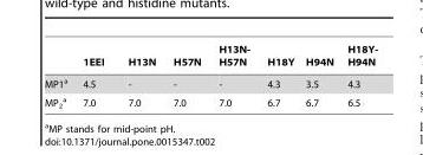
<table><thead><tr><td></td><td>1EEI</td><td>H13N</td><td>H57N</td><td>H13N- H57N</td><td>H18Y</td><td>H94N</td><td>H18Y- H94N</td></tr></thead><tbody><tr><td>MP1<sup>a</sup></td><td>4.5</td><td>-</td><td>-</td><td>-</td><td>4.3</td><td>3.5</td><td>4.3</td></tr><tr><td>MP<sub>2</sub> a</td><td>7.0</td><td>7.0</td><td>7.0</td><td>7.0</td><td>6.7</td><td>6.7</td><td>6.5</td></tr></tbody></table>